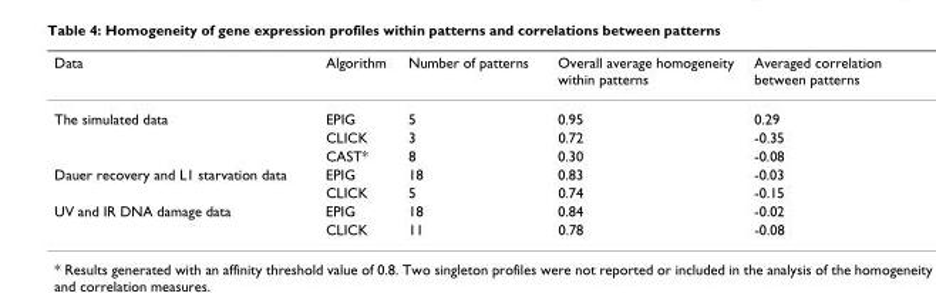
<table><thead><tr><td>Data</td><td>Algorithm</td><td>Number of patterns</td><td>Overall average homogeneity within patterns</td><td>Averaged correlation between patterns</td></tr></thead><tbody><tr><td rowspan="3">The simulated data</td><td>EPIG</td><td>5</td><td>0.95</td><td>0.29</td></tr><tr><td>CLICK</td><td>3</td><td>0.72</td><td>-0.35</td></tr><tr><td>CAST*</td><td>8</td><td>0.30</td><td>-0.08</td></tr><tr><td rowspan="2">Dauer recovery and L1 starvation data</td><td>EPIG</td><td>18</td><td>0.83</td><td>-0.03</td></tr><tr><td>CLICK</td><td>5</td><td>0.74</td><td>-0.15</td></tr><tr><td rowspan="2">UV and IR DNA damage data</td><td>EPIG</td><td>18</td><td>0.84</td><td>-0.02</td></tr><tr><td>CLICK</td><td>11</td><td>0.78</td><td>-0.08</td></tr></tbody></table>